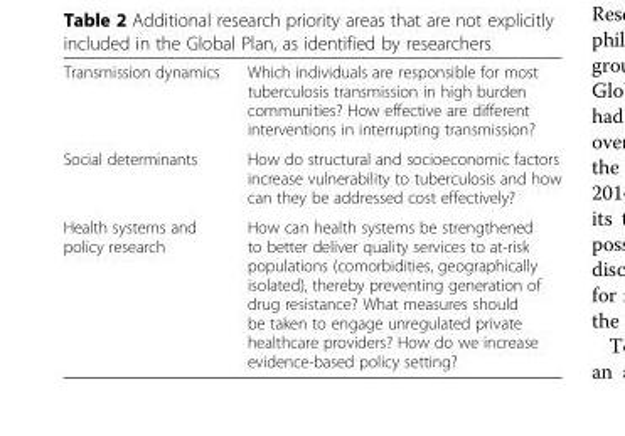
<table><tbody><tr><td>Transmission dynamics</td><td>Which individuals are responsible for most tuberculosis transmission in high burden communities? How effective are different interventions in interrupting transmission?</td></tr><tr><td>Social determinants</td><td>How do structural and socioeconomic factors increase vulnerability to tuberculosis and how can they be addressed cost effectively?</td></tr><tr><td>Health systems and policy research</td><td>How can health systems be strengthened to better deliver quality services to at-risk populations (comorbidities, geographically isolated), thereby preventing generation of drug resistance? What measures should be taken to engage unregulated private healthcare providers? How do we increase evidence-based policy setting?</td></tr></tbody></table>